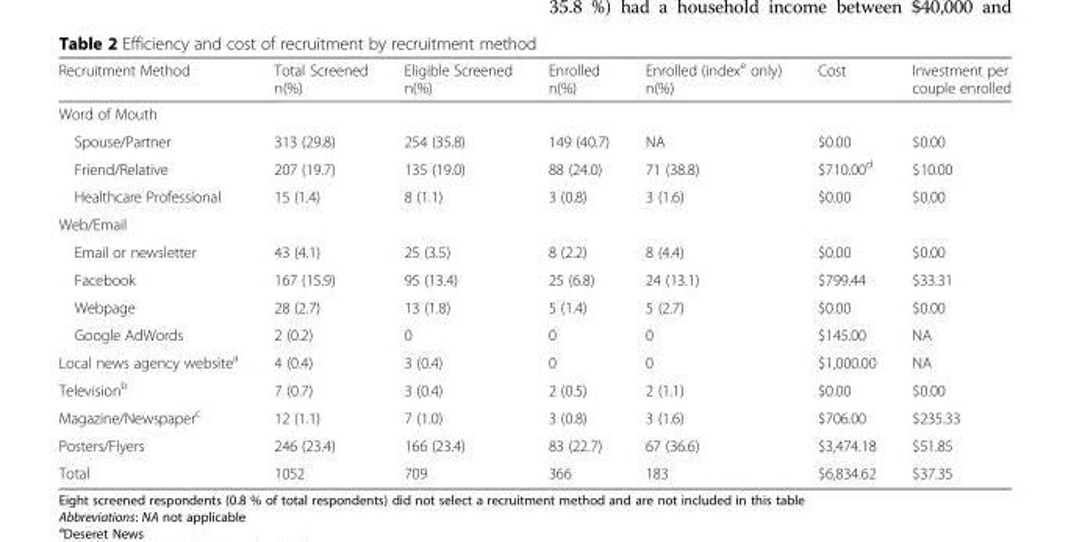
<table><thead><tr><td>Recruitment Method</td><td>Total Screened n(%)</td><td>Eligible Screened n(%)</td><td>Enrolled n(%)</td><td>Enrolled (index<sup>e</sup> only) n(%)</td><td>Cost</td><td>Investment per couple enrolled</td></tr></thead><tbody><tr><td colspan="7">Word of Mouth</td></tr><tr><td>Spouse/Partner</td><td>313 (29.8)</td><td>254 (35.8)</td><td>149 (40.7)</td><td>NA</td><td>$0.00</td><td>$0.00</td></tr><tr><td>Friend/Relative</td><td>207 (19.7)</td><td>135 (19.0)</td><td>88 (24.0)</td><td>71 (38.8)</td><td>$710.00<sup>d</sup></td><td>$10.00</td></tr><tr><td>Healthcare Professional</td><td>15 (1.4)</td><td>8 (1.1)</td><td>3 (0.8)</td><td>3 (1.6)</td><td>$0.00</td><td>$0.00</td></tr><tr><td colspan="7">Web/Email</td></tr><tr><td>Email or newsletter</td><td>43 (4.1)</td><td>25 (3.5)</td><td>8 (2.2)</td><td>8 (4.4)</td><td>$0.00</td><td>$0.00</td></tr><tr><td>Facebook</td><td>167 (15.9)</td><td>95 (13.4)</td><td>25 (6.8)</td><td>24 (13.1)</td><td>$799.44</td><td>$33.31</td></tr><tr><td>Webpage</td><td>28 (2.7)</td><td>13 (1.8)</td><td>5 (1.4)</td><td>5 (2.7)</td><td>$0.00</td><td>$0.00</td></tr><tr><td>Google AdWords</td><td>2 (0.2)</td><td>0</td><td>0</td><td>0</td><td>$145.00</td><td>NA</td></tr><tr><td>Local news agency website<sup>a</sup></td><td>4 (0.4)</td><td>3 (0.4)</td><td>0</td><td>0</td><td>$1,000.00</td><td>NA</td></tr><tr><td>Television<sup>b</sup></td><td>7 (0.7)</td><td>3 (0.4)</td><td>2 (0.5)</td><td>2 (1.1)</td><td>$0.00</td><td>$0.00</td></tr><tr><td>Magazine/Newspaper<sup>c</sup></td><td>12 (1.1)</td><td>7 (1.0)</td><td>3 (0.8)</td><td>3 (1.6)</td><td>$706.00</td><td>$235.33</td></tr><tr><td>Posters/Flyers</td><td>246 (23.4)</td><td>166 (23.4)</td><td>83 (22.7)</td><td>67 (36.6)</td><td>$3,474.18</td><td>$51.85</td></tr><tr><td>Total</td><td>1052</td><td>709</td><td>366</td><td>183</td><td>$6,834.62</td><td>$37.35</td></tr></tbody></table>